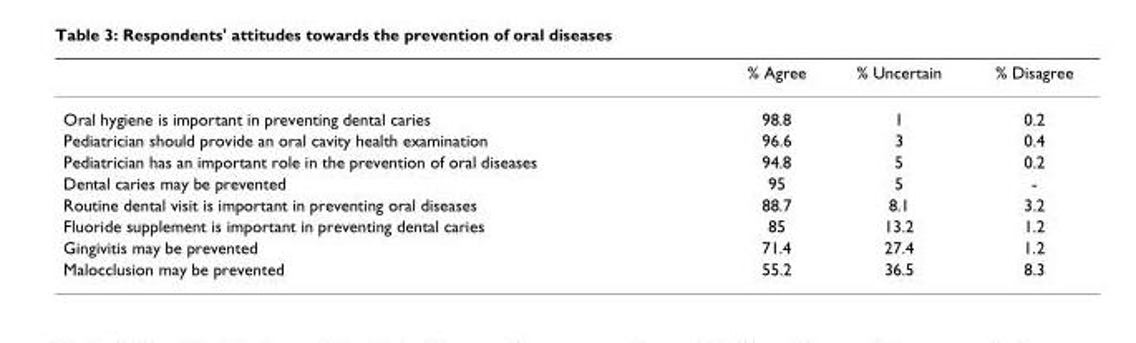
<table><thead><tr><td></td><td>% Agree</td><td>% Uncertain</td><td>% Disagree</td></tr></thead><tbody><tr><td>Oral hygiene is important in preventing dental caries</td><td>98.8</td><td>1</td><td>0.2</td></tr><tr><td>Pediatrician should provide an oral cavity health examination</td><td>96.6</td><td>3</td><td>0.4</td></tr><tr><td>Pediatrician has an important role in the prevention of oral diseases</td><td>94.8</td><td>5</td><td>0.2</td></tr><tr><td>Dental caries may be prevented</td><td>95</td><td>5</td><td>-</td></tr><tr><td>Routine dental visit is important in preventing oral diseases</td><td>88.7</td><td>8.1</td><td>3.2</td></tr><tr><td>Fluoride supplement is important in preventing dental caries</td><td>85</td><td>13.2</td><td>1.2</td></tr><tr><td>Gingivitis may be prevented</td><td>71.4</td><td>27.4</td><td>1.2</td></tr><tr><td>Malocclusion may be prevented</td><td>55.2</td><td>36.5</td><td>8.3</td></tr></tbody></table>